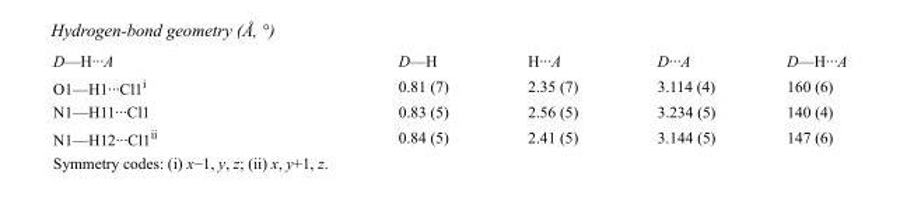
<table><tbody><tr><td>D—H···A</td><td>D—H</td><td>H···A</td><td>D···A</td><td>D—H···A</td></tr><tr><td>O1—H1···Cl1<sup>i</sup></td><td>0.81 (7)</td><td>2.35 (7)</td><td>3.114 (4)</td><td>160 (6)</td></tr><tr><td>N1—H11···Cl1</td><td>0.83 (5)</td><td>2.56 (5)</td><td>3.234 (5)</td><td>140 (4)</td></tr><tr><td>N1—H12···Cl1<sup>ii</sup></td><td>0.84 (5)</td><td>2.41 (5)</td><td>3.144 (5)</td><td>147 (6)</td></tr></tbody></table>